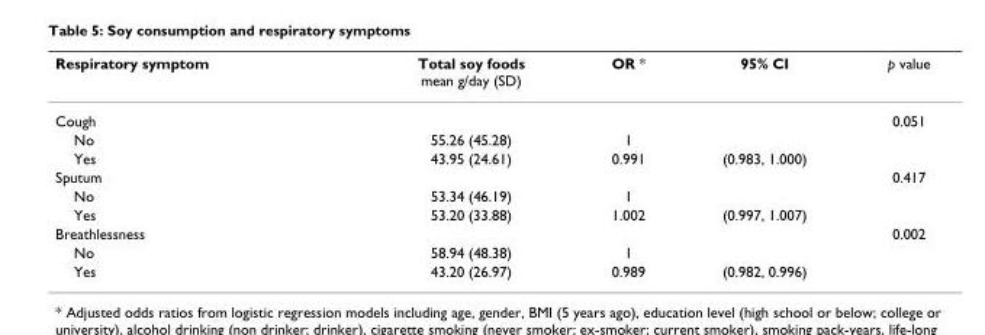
<table><thead><tr><td>Respiratory symptom</td><td>Total soy foods mean g/day (SD)</td><td>OR *</td><td>95% CI</td><td>p value</td></tr></thead><tbody><tr><td>Cough</td><td></td><td></td><td></td><td>0.051</td></tr><tr><td>No</td><td>55.26 (45.28)</td><td>1</td><td></td><td></td></tr><tr><td>Yes</td><td>43.95 (24.61)</td><td>0.991</td><td>(0.983, 1.000)</td><td></td></tr><tr><td>Sputum</td><td></td><td></td><td></td><td>0.417</td></tr><tr><td>No</td><td>53.34 (46.19)</td><td>1</td><td></td><td></td></tr><tr><td>Yes</td><td>53.20 (33.88)</td><td>1.002</td><td>(0.997, 1.007)</td><td></td></tr><tr><td>Breathlessness</td><td></td><td></td><td></td><td>0.002</td></tr><tr><td>No</td><td>58.94 (48.38)</td><td>1</td><td></td><td></td></tr><tr><td>Yes</td><td>43.20 (26.97)</td><td>0.989</td><td>(0.982, 0.996)</td><td></td></tr></tbody></table>